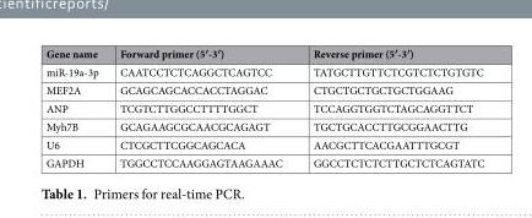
<table><thead><tr><td>Gene name</td><td>Forward primer (5′-3′)</td><td>Reverse primer (5′-3′)</td></tr></thead><tbody><tr><td>miR-19a-3p</td><td>CAATCCTCTCAGGCTCAGTCC</td><td>TATGCTTGTTCTCGTCTCTGTGTC</td></tr><tr><td>MEF2A</td><td>GCAGCAGCACCACCTAGGAC</td><td>CTGCTGCTGCTGCTGGAAG</td></tr><tr><td>ANP</td><td>TCGTCTTGGCCTTTTGGCT</td><td>TCCAGGTGGTCTAGCAGGTTCT</td></tr><tr><td>Myh7B</td><td>GCAGAAGCGCAACGCAGAGT</td><td>TGCTGCACCTTGCGGAACTTG</td></tr><tr><td>U6</td><td>CTCGCTTCGGCAGCACA</td><td>AACGCTTCACGAATTTGCGT</td></tr><tr><td>GAPDH</td><td>TGGCCTCCAAGGAGTAAGAAAC</td><td>GGCCTCTCTCTTGCTCTCAGTATC</td></tr></tbody></table>